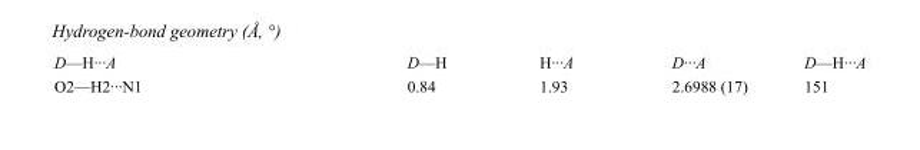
<table><tbody><tr><td>D—H···A</td><td>D—H</td><td>H···A</td><td>D···A</td><td>D—H···A</td></tr><tr><td>O2—H2···N1</td><td>0.84</td><td>1.93</td><td>2.6988 (17)</td><td>151</td></tr></tbody></table>